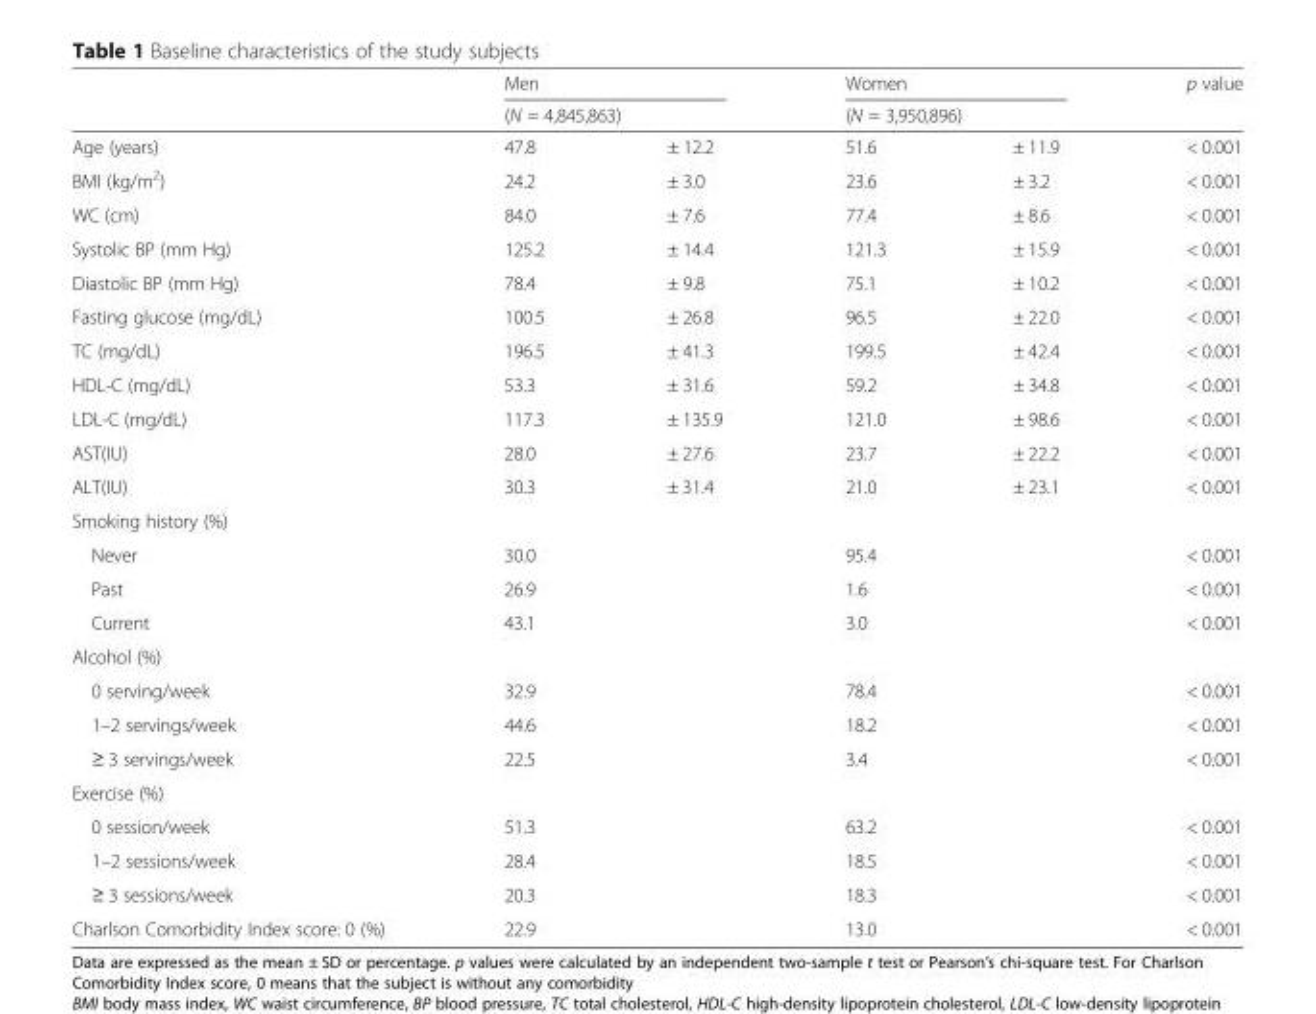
<table><thead><tr><td rowspan="3">Age (years)</td><td rowspan="2" colspan="2">Men (N = 4,845,863)</td><td rowspan="2" colspan="2">Women (N = 3,950,896)</td><td rowspan="3">p value &lt; 0.001</td></tr><tr></tr><tr><td>47.8</td><td>± 12.2</td><td>51.6</td><td>± 11.9</td></tr></thead><tbody><tr><td>BMI (kg/m<sup>2</sup>)</td><td>24.2</td><td>± 3.0</td><td>23.6</td><td>± 3.2</td><td>&lt; 0.001</td></tr><tr><td>WC (cm)</td><td>84.0</td><td>± 7.6</td><td>77.4</td><td>± 8.6</td><td>&lt; 0.001</td></tr><tr><td>Systolic BP (mm Hg)</td><td>125.2</td><td>± 14.4</td><td>121.3</td><td>± 15.9</td><td>&lt; 0.001</td></tr><tr><td>Diastolic BP (mm Hg)</td><td>78.4</td><td>± 9.8</td><td>75.1</td><td>± 10.2</td><td>&lt; 0.001</td></tr><tr><td>Fasting glucose (mg/dL)</td><td>100.5</td><td>± 26.8</td><td>96.5</td><td>± 22.0</td><td>&lt; 0.001</td></tr><tr><td>TC (mg/dL)</td><td>196.5</td><td>± 41.3</td><td>199.5</td><td>± 42.4</td><td>&lt; 0.001</td></tr><tr><td>HDL-C (mg/dL)</td><td>53.3</td><td>± 31.6</td><td>59.2</td><td>± 34.8</td><td>&lt; 0.001</td></tr><tr><td>LDL-C (mg/dL)</td><td>117.3</td><td>± 135.9</td><td>121.0</td><td>± 98.6</td><td>&lt; 0.001</td></tr><tr><td>AST(IU)</td><td>28.0</td><td>± 27.6</td><td>23.7</td><td>± 22.2</td><td>&lt; 0.001</td></tr><tr><td>ALT(IU)</td><td>30.3</td><td>± 31.4</td><td>21.0</td><td>± 23.1</td><td>&lt; 0.001</td></tr><tr><td colspan="6">Smoking history (%)</td></tr><tr><td>Never</td><td>30.0</td><td></td><td>95.4</td><td></td><td>&lt; 0.001</td></tr><tr><td>Past</td><td>26.9</td><td></td><td>1.6</td><td></td><td>&lt; 0.001</td></tr><tr><td>Current</td><td>43.1</td><td></td><td>3.0</td><td></td><td>&lt; 0.001</td></tr><tr><td colspan="6">Alcohol (%)</td></tr><tr><td>0 serving/week</td><td>32.9</td><td></td><td>78.4</td><td></td><td>&lt; 0.001</td></tr><tr><td>1–2 servings/week</td><td>44.6</td><td></td><td>18.2</td><td></td><td>&lt; 0.001</td></tr><tr><td>≥ 3 servings/week</td><td>22.5</td><td></td><td>3.4</td><td></td><td>&lt; 0.001</td></tr><tr><td colspan="6">Exercise (%)</td></tr><tr><td>0 session/week</td><td>51.3</td><td></td><td>63.2</td><td></td><td>&lt; 0.001</td></tr><tr><td>1–2 sessions/week</td><td>28.4</td><td></td><td>18.5</td><td></td><td>&lt; 0.001</td></tr><tr><td>≥ 3 sessions/week</td><td>20.3</td><td></td><td>18.3</td><td></td><td>&lt; 0.001</td></tr><tr><td>Charlson Comorbidity Index score: 0 (%)</td><td>22.9</td><td></td><td>13.0</td><td></td><td>&lt; 0.001</td></tr></tbody></table>